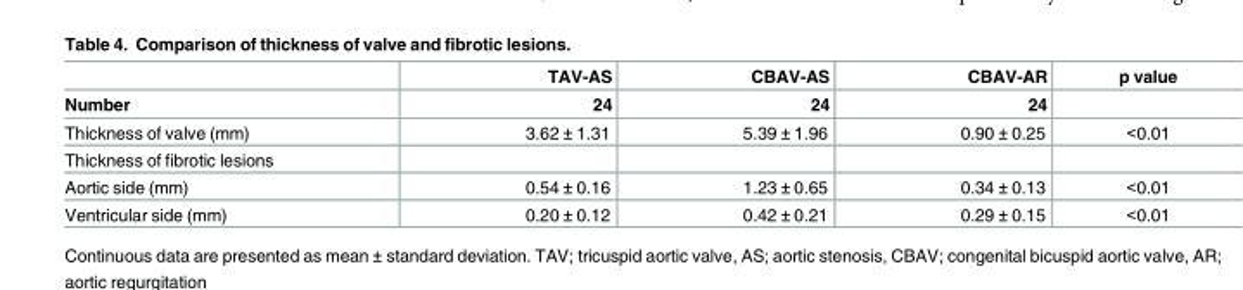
<table><thead><tr><td rowspan="2">Number</td><td rowspan="2">TAV-AS 24</td><td rowspan="2">CBAV-AS 24</td><td rowspan="2">CBAV-AR 24</td><td rowspan="2">p value</td></tr><tr></tr></thead><tbody><tr><td>Thickness of valve (mm)</td><td>3.62 ± 1.31</td><td>5.39 ± 1.96</td><td>0.90 ± 0.25</td><td>&lt;0.01</td></tr><tr><td colspan="5">Thickness of fibrotic lesions</td></tr><tr><td>Aortic side (mm)</td><td>0.54 ± 0.16</td><td>1.23 ± 0.65</td><td>0.34 ± 0.13</td><td>&lt;0.01</td></tr><tr><td>Ventricular side (mm)</td><td>0.20 ± 0.12</td><td>0.42 ± 0.21</td><td>0.29 ± 0.15</td><td>&lt;0.01</td></tr></tbody></table>